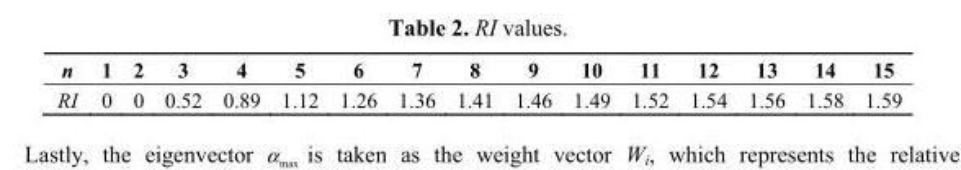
<table><thead><tr><td>n</td><td>1</td><td>2</td><td>3</td><td>4</td><td>5</td><td>6</td><td>7</td><td>8</td><td>9</td><td>10</td><td>11</td><td>12</td><td>13</td><td>14</td><td>15</td></tr></thead><tbody><tr><td>RI</td><td>0</td><td>0</td><td>0.52</td><td>0.89</td><td>1.12</td><td>1.26</td><td>1.36</td><td>1.41</td><td>1.46</td><td>1.49</td><td>1.52</td><td>1.54</td><td>1.56</td><td>1.58</td><td>1.59</td></tr></tbody></table>